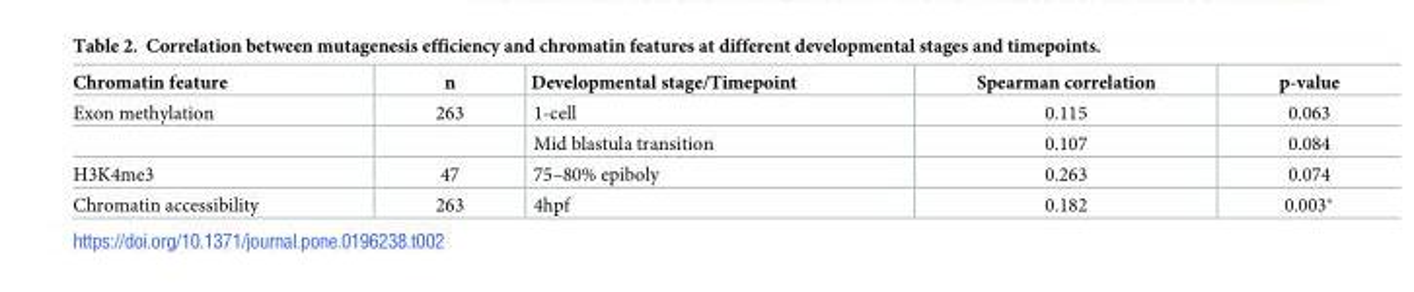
<table><thead><tr><td>Chromatin feature</td><td>n</td><td>Developmental stage/Timepoint</td><td>Spearman correlation</td><td>p-value</td></tr></thead><tbody><tr><td rowspan="2">Exon methylation</td><td>263</td><td>1-cell</td><td>0.115</td><td>0.063</td></tr><tr><td></td><td>Mid blastula transition</td><td>0.107</td><td>0.084</td></tr><tr><td>H3K4me3</td><td>47</td><td>75–80% epiboly</td><td>0.263</td><td>0.074</td></tr><tr><td>Chromatin accessibility</td><td>263</td><td>4hpf</td><td>0.182</td><td>0.003*</td></tr></tbody></table>